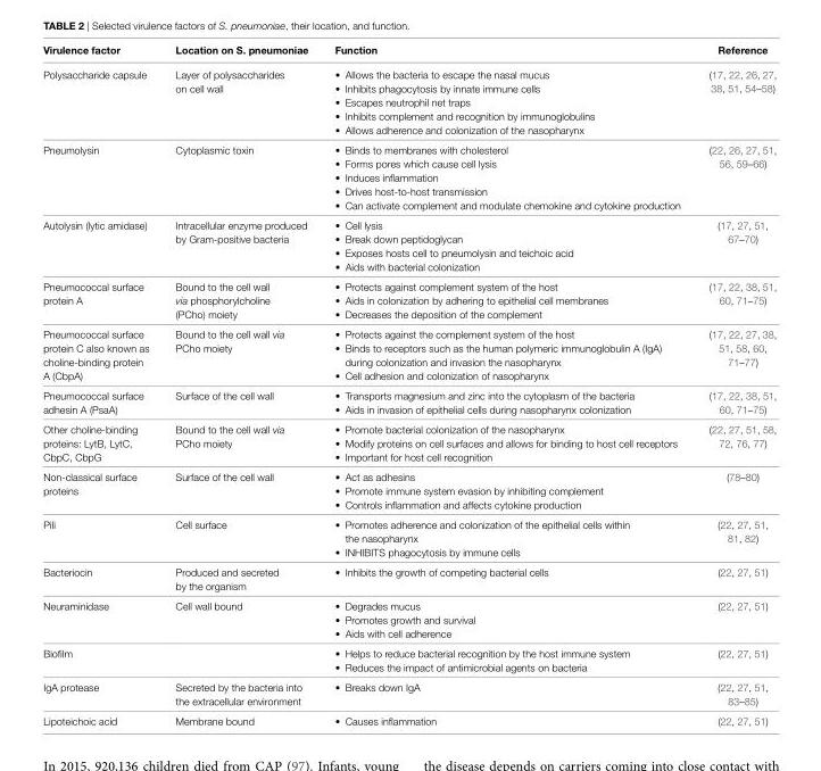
<table><thead><tr><td>virulence factor</td><td>Location on S. pneumoniae</td><td>Function</td><td>Reference</td></tr></thead><tbody><tr><td>Polysaccharide capsule</td><td>Layer of polysaccharides on cell wall</td><td>• Allows the bacteria to escape the nasal mucus • Inhibits phagocytosis by innate immune cells • Escapes neutrophil net traps • Inhibits complement and recognition by immunoglobulins • Allows adherence and colonization of the nasopharynx</td><td>(17, 22, 26, 27, 38, 51, 54–58)</td></tr><tr><td>Pneumolysin</td><td>Cytoplasmic toxin</td><td>• Binds to membranes with cholesterol • Forms pores which cause cell lysis • Induces inflammation • Drives host-to-host transmission • Can activate complement and modulate chemokine and cytokine production</td><td>(22, 26, 27, 51, 56, 59–66)</td></tr><tr><td>Autolysin (lytic amidase)</td><td>Intracellular enzyme produced by Gram-positive bacteria</td><td>• Cell lysis • Break down peptidoglycan • Exposes hosts cell to pneumolysin and teichoic acid • Aids with bacterial colonization</td><td>(17, 27, 51, 67–70)</td></tr><tr><td>Pneumococcal surface protein A</td><td>Bound to the cell wall via phosphorylcholine (PCho) moiety</td><td>• Protects against complement system of the host • Aids in colonization by adhering to epithelial cell membranes • Decreases the deposition of the complement</td><td>(17, 22, 38, 51, 60, 71–75)</td></tr><tr><td>Pneumococcal surface protein C also known as choline-binding protein A (CbpA)</td><td>Bound to the cell wall via PCho moiety</td><td>• Protects against the complement system of the host • Binds to receptors such as the human polymeric immunoglobulin A (IgA) during colonization and invasion the nasopharynx • Cell adhesion and colonization of nasopharynx</td><td>(17, 22, 27, 38, 51, 58, 60, 71–77)</td></tr><tr><td>Pneumococcal surface adhesin A (PsaA)</td><td>Surface of the cell wall</td><td>• Transports magnesium and zinc into the cytoplasm of the bacteria • Aids in invasion of epithelial cells during nasopharynx colonization</td><td>(17, 22, 38, 51, 60, 71–75)</td></tr><tr><td>Other choline-binding proteins: LytB, LytC, CbpC, CbpG</td><td>Bound to the cell wall via PCho moiety</td><td>• Promote bacterial colonization of the nasopharynx • Modify proteins on cell surfaces and allows for binding to host cell receptors • Important for host cell recognition</td><td>(22, 27, 51, 58, 72, 76, 77)</td></tr><tr><td>Non-classical surface proteins</td><td>Surface of the cell wall</td><td>• Act as adhesins • Promote immune system evasion by inhibiting complement • Controls inflammation and affects cytokine production</td><td>(78–80)</td></tr><tr><td>Pili</td><td>Cell surface</td><td>• Promotes adherence and colonization of the epithelial cells within the nasopharynx • INHIBITS phagocytosis by immune cells</td><td>(22, 27, 51, 81, 82)</td></tr><tr><td>Bacteriocin</td><td>Produced and secreted by the organism</td><td>• Inhibits the growth of competing bacterial cells</td><td>(22, 27, 51)</td></tr><tr><td>Neuraminidase</td><td>Cell wall bound</td><td>• Degrades mucus • Promotes growth and survival • Aids with cell adherence</td><td>(22, 27, 51)</td></tr><tr><td>Biofilm</td><td></td><td>• Helps to reduce bacterial recognition by the host immune system • Reduces the impact of antimicrobial agents on bacteria</td><td>(22, 27, 51)</td></tr><tr><td>IgA protease</td><td>Secreted by the bacteria into the extracellular environment</td><td>• Breaks down IgA</td><td>(22, 27, 51, 83–85)</td></tr><tr><td>Lipoteichoic acid</td><td>Membrane bound</td><td>• Causes inflammation</td><td>(22, 27, 51)</td></tr></tbody></table>